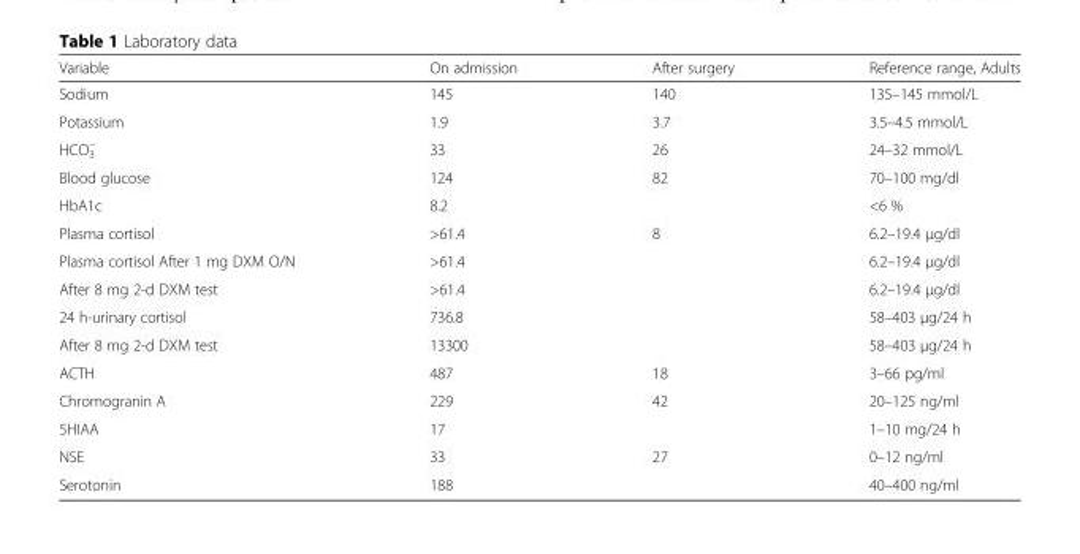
<table><thead><tr><td>Variable</td><td>On admission</td><td>After surgery</td><td>Reference range, Adults</td></tr></thead><tbody><tr><td>Sodium</td><td>145</td><td>140</td><td>135–145 mmol/L</td></tr><tr><td>Potassium</td><td>1.9</td><td>3.7</td><td>3.5–4.5 mmol/L</td></tr><tr><td>HCO<sub>3</sub> <sup>−</sup></td><td>33</td><td>26</td><td>24–32 mmol/L</td></tr><tr><td>Blood glucose</td><td>124</td><td>82</td><td>70–100 mg/dl</td></tr><tr><td>HbA1c</td><td>8.2</td><td></td><td>&lt;6 %</td></tr><tr><td>Plasma cortisol</td><td>&gt;61.4</td><td>8</td><td>6.2–19.4 μg/dl</td></tr><tr><td>Plasma cortisol After 1 mg DXM O/N</td><td>&gt;61.4</td><td></td><td>6.2–19.4 μg/dl</td></tr><tr><td>After 8 mg 2-d DXM test</td><td>&gt;61.4</td><td></td><td>6.2–19.4 μg/dl</td></tr><tr><td>24 h-urinary cortisol</td><td>736.8</td><td></td><td>58–403 μg/24 h</td></tr><tr><td>After 8 mg 2-d DXM test</td><td>13300</td><td></td><td>58–403 μg/24 h</td></tr><tr><td>ACTH</td><td>487</td><td>18</td><td>3–66 pg/ml</td></tr><tr><td>Chromogranin A</td><td>229</td><td>42</td><td>20–125 ng/ml</td></tr><tr><td>5HIAA</td><td>17</td><td></td><td>1–10 mg/24 h</td></tr><tr><td>NSE</td><td>33</td><td>27</td><td>0–12 ng/ml</td></tr><tr><td>Serotonin</td><td>188</td><td></td><td>40–400 ng/ml</td></tr></tbody></table>